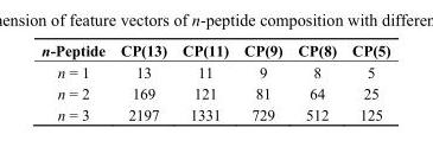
<table><thead><tr><td>n-Peptide</td><td>CP(13)</td><td>CP(11)</td><td>CP(9)</td><td>CP(8)</td><td>CP(5)</td></tr></thead><tbody><tr><td>n = 1</td><td>13</td><td>11</td><td>9</td><td>8</td><td>5</td></tr><tr><td>n = 2</td><td>169</td><td>121</td><td>81</td><td>64</td><td>25</td></tr><tr><td>n = 3</td><td>2197</td><td>1331</td><td>729</td><td>512</td><td>125</td></tr></tbody></table>